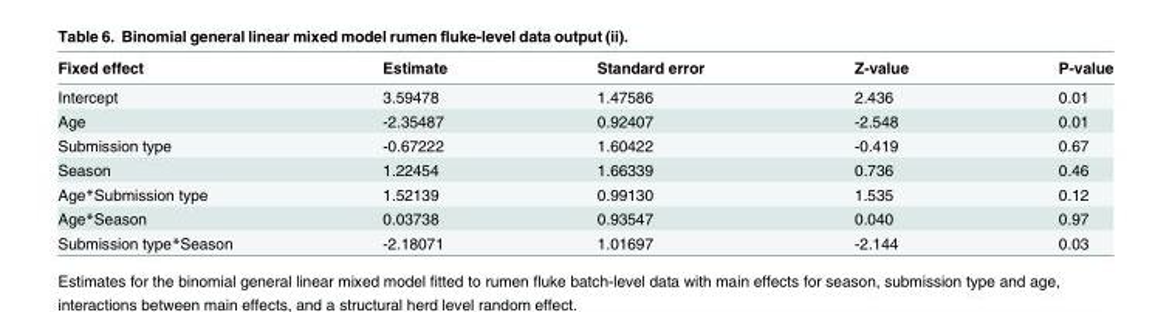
<table><thead><tr><td>Fixed effect</td><td>Estimate</td><td>Standard error</td><td>Z-value</td><td>P-value</td></tr></thead><tbody><tr><td>Intercept</td><td>3.59478</td><td>1.47586</td><td>2.436</td><td>0.01</td></tr><tr><td>Age</td><td>-2.35487</td><td>0.92407</td><td>-2.548</td><td>0.01</td></tr><tr><td>Submission type</td><td>-0.67222</td><td>1.60422</td><td>-0.419</td><td>0.67</td></tr><tr><td>Season</td><td>1.22454</td><td>1.66339</td><td>0.736</td><td>0.46</td></tr><tr><td>Age*Submission type</td><td>1.52139</td><td>0.99130</td><td>1.535</td><td>0.12</td></tr><tr><td>Age*Season</td><td>0.03738</td><td>0.93547</td><td>0.040</td><td>0.97</td></tr><tr><td>Submission type*Season</td><td>-2.18071</td><td>1.01697</td><td>-2.144</td><td>0.03</td></tr></tbody></table>